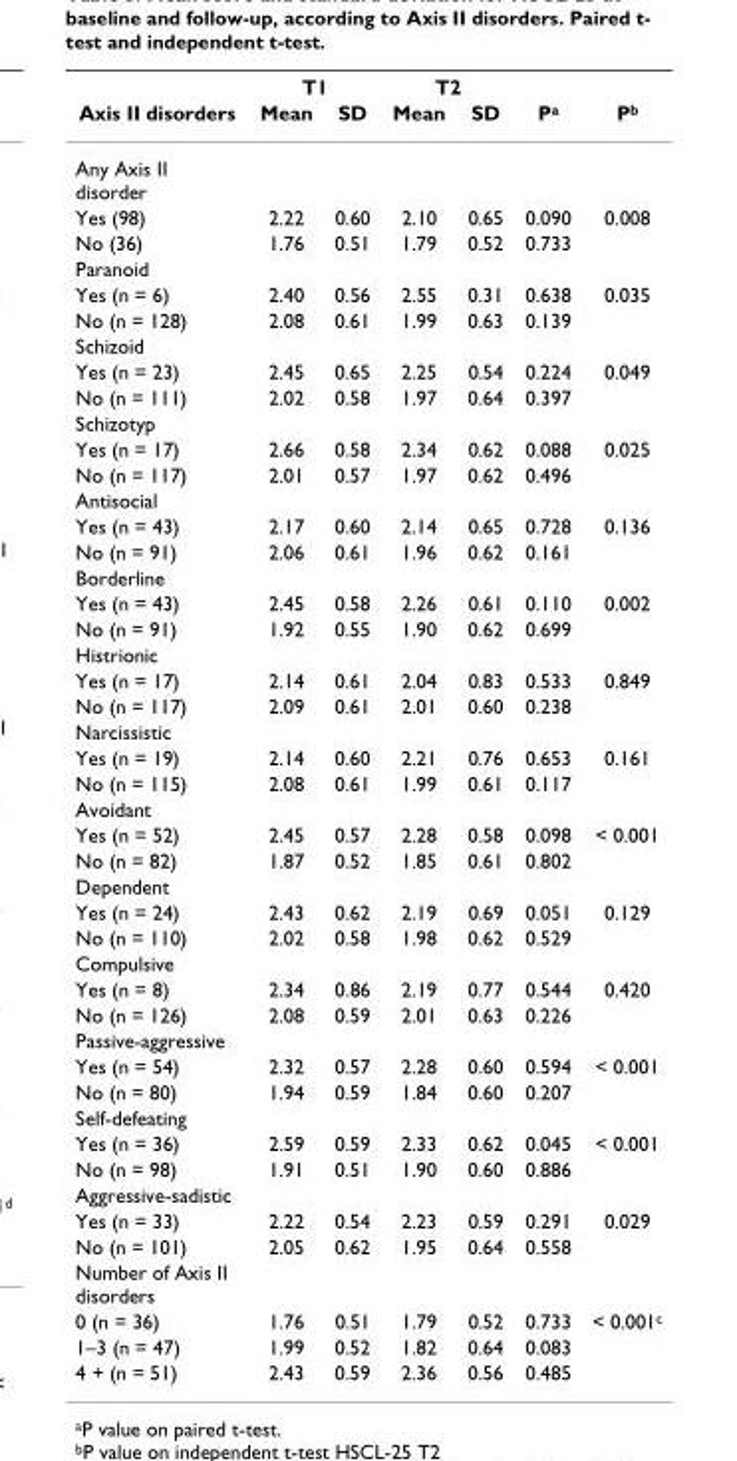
<table><thead><tr><td rowspan="2">Axis II disorders</td><td colspan="2">T1</td><td colspan="2">T2</td><td rowspan="2">P<sup>a</sup></td><td rowspan="2">P<sup>b</sup></td></tr><tr><td>Mean</td><td>SD</td><td>Mean</td><td>SD</td></tr></thead><tbody><tr><td colspan="7">Any Axis II disorder</td></tr><tr><td>Yes (98)</td><td>2.22</td><td>0.60</td><td>2.10</td><td>0.65</td><td>0.090</td><td>0.008</td></tr><tr><td>No (36)</td><td>1.76</td><td>0.51</td><td>1.79</td><td>0.52</td><td>0.733</td><td></td></tr><tr><td colspan="7">Paranoid</td></tr><tr><td>Yes (n = 6)</td><td>2.40</td><td>0.56</td><td>2.55</td><td>0.31</td><td>0.638</td><td>0.035</td></tr><tr><td>No (n = 128)</td><td>2.08</td><td>0.61</td><td>1.99</td><td>0.63</td><td>0.139</td><td></td></tr><tr><td colspan="7">Schizoid</td></tr><tr><td>Yes (n = 23)</td><td>2.45</td><td>0.65</td><td>2.25</td><td>0.54</td><td>0.224</td><td>0.049</td></tr><tr><td>No (n = 111)</td><td>2.02</td><td>0.58</td><td>1.97</td><td>0.64</td><td>0.397</td><td></td></tr><tr><td colspan="7">Schizotyp</td></tr><tr><td>Yes (n = 17)</td><td>2.66</td><td>0.58</td><td>2.34</td><td>0.62</td><td>0.088</td><td>0.025</td></tr><tr><td>No (n = 117)</td><td>2.01</td><td>0.57</td><td>1.97</td><td>0.62</td><td>0.496</td><td></td></tr><tr><td colspan="7">Antisocial</td></tr><tr><td>Yes (n = 43)</td><td>2.17</td><td>0.60</td><td>2.14</td><td>0.65</td><td>0.728</td><td>0.136</td></tr><tr><td>No (n = 91)</td><td>2.06</td><td>0.61</td><td>1.96</td><td>0.62</td><td>0.161</td><td></td></tr><tr><td colspan="7">Borderline</td></tr><tr><td>Yes (n = 43)</td><td>2.45</td><td>0.58</td><td>2.26</td><td>0.61</td><td>0.110</td><td>0.002</td></tr><tr><td>No (n = 91)</td><td>1.92</td><td>0.55</td><td>1.90</td><td>0.62</td><td>0.699</td><td></td></tr><tr><td colspan="7">Histrionic</td></tr><tr><td>Yes (n = 17)</td><td>2.14</td><td>0.61</td><td>2.04</td><td>0.83</td><td>0.533</td><td>0.849</td></tr><tr><td>No (n = 117)</td><td>2.09</td><td>0.61</td><td>2.01</td><td>0.60</td><td>0.238</td><td></td></tr><tr><td colspan="7">Narcissistic</td></tr><tr><td>Yes (n = 19)</td><td>2.14</td><td>0.60</td><td>2.21</td><td>0.76</td><td>0.653</td><td>0.161</td></tr><tr><td>No (n = 115)</td><td>2.08</td><td>0.61</td><td>1.99</td><td>0.61</td><td>0.117</td><td></td></tr><tr><td colspan="7">Avoidant</td></tr><tr><td>Yes (n = 52)</td><td>2.45</td><td>0.57</td><td>2.28</td><td>0.58</td><td>0.098</td><td>&lt; 0.001</td></tr><tr><td>No (n = 82)</td><td>1.87</td><td>0.52</td><td>1.85</td><td>0.61</td><td>0.802</td><td></td></tr><tr><td colspan="7">Dependent</td></tr><tr><td>Yes (n = 24)</td><td>2.43</td><td>0.62</td><td>2.19</td><td>0.69</td><td>0.051</td><td>0.129</td></tr><tr><td>No (n = 110)</td><td>2.02</td><td>0.58</td><td>1.98</td><td>0.62</td><td>0.529</td><td></td></tr><tr><td colspan="7">Compulsive</td></tr><tr><td>Yes (n = 8)</td><td>2.34</td><td>0.86</td><td>2.19</td><td>0.77</td><td>0.544</td><td>0.420</td></tr><tr><td>No (n = 126)</td><td>2.08</td><td>0.59</td><td>2.01</td><td>0.63</td><td>0.226</td><td></td></tr><tr><td colspan="7">Passive-aggressive</td></tr><tr><td>Yes (n = 54)</td><td>2.32</td><td>0.57</td><td>2.28</td><td>0.60</td><td>0.594</td><td>&lt; 0.001</td></tr><tr><td>No (n = 80)</td><td>1.94</td><td>0.59</td><td>1.84</td><td>0.60</td><td>0.207</td><td></td></tr><tr><td colspan="7">Self-defeating</td></tr><tr><td>Yes (n = 36)</td><td>2.59</td><td>0.59</td><td>2.33</td><td>0.62</td><td>0.045</td><td>&lt; 0.001</td></tr><tr><td>No (n = 98)</td><td>1.91</td><td>0.51</td><td>1.90</td><td>0.60</td><td>0.886</td><td></td></tr><tr><td colspan="7">Aggressive-sadistic</td></tr><tr><td>Yes (n = 33)</td><td>2.22</td><td>0.54</td><td>2.23</td><td>0.59</td><td>0.291</td><td>0.029</td></tr><tr><td>No (n = 101)</td><td>2.05</td><td>0.62</td><td>1.95</td><td>0.64</td><td>0.558</td><td></td></tr><tr><td colspan="7">Number of Axis II disorders</td></tr><tr><td>0 (n = 36)</td><td>1.76</td><td>0.51</td><td>1.79</td><td>0.52</td><td>0.733</td><td>&lt; 0.001<sup>c</sup></td></tr><tr><td>1–3 (n = 47)</td><td>1.99</td><td>0.52</td><td>1.82</td><td>0.64</td><td>0.083</td><td></td></tr><tr><td>4 + (n = 51)</td><td>2.43</td><td>0.59</td><td>2.36</td><td>0.56</td><td>0.485</td><td></td></tr></tbody></table>